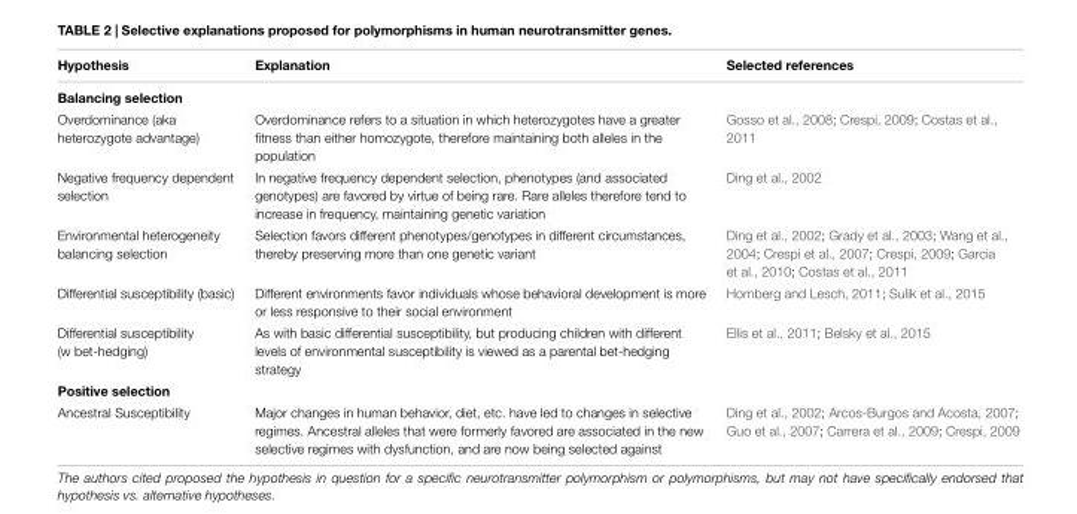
<table><thead><tr><td>Hypothesis</td><td>Explanation</td><td>Selected references</td></tr></thead><tbody><tr><td colspan="3">Balancing selection</td></tr><tr><td>Overdominance (aka heterozygote advantage)</td><td>Overdominance refers to a situation in which heterozygotes have a greater fitness than either homozygote, therefore maintaining both alleles in the population</td><td>Gosso et al., 2008; Crespi, 2009; Costas et al., 2011</td></tr><tr><td>Negative frequency dependent selection</td><td>In negative frequency dependent selection, phenotypes (and associated genotypes) are favored by virtue of being rare. Rare alleles therefore tend to increase in frequency, maintaining genetic variation</td><td>Ding et al., 2002</td></tr><tr><td>Environmental heterogeneity balancing selection</td><td>Selection favors different phenotypes/genotypes in different circumstances, thereby preserving more than one genetic variant</td><td>Ding et al., 2002; Grady et al., 2003; Wang et al., 2004; Crespi et al., 2007; Crespi, 2009; Garcia et al., 2010; Costas et al., 2011</td></tr><tr><td>Differential susceptibility (basic)</td><td>Different environments favor individuals whose behavioral development is more or less responsive to their social environment</td><td>Homberg and Lesch, 2011; Sulik et al., 2015</td></tr><tr><td>Differential susceptibility (w bet-hedging)</td><td>As with basic differential susceptibility, but producing children with different levels of environmental susceptibility is viewed as a parental bet-hedging strategy</td><td>Ellis et al., 2011; Belsky et al., 2015</td></tr><tr><td colspan="3">Positive selection</td></tr><tr><td>Ancestral Susceptibility</td><td>Major changes in human behavior, diet, etc. have led to changes in selective regimes. Ancestral alleles that were formerly favored are associated in the new selective regimes with dysfunction, and are now being selected against</td><td>Ding et al., 2002; Arcos-Burgos and Acosta, 2007; Guo et al., 2007; Carrera et al., 2009; Crespi, 2009</td></tr></tbody></table>